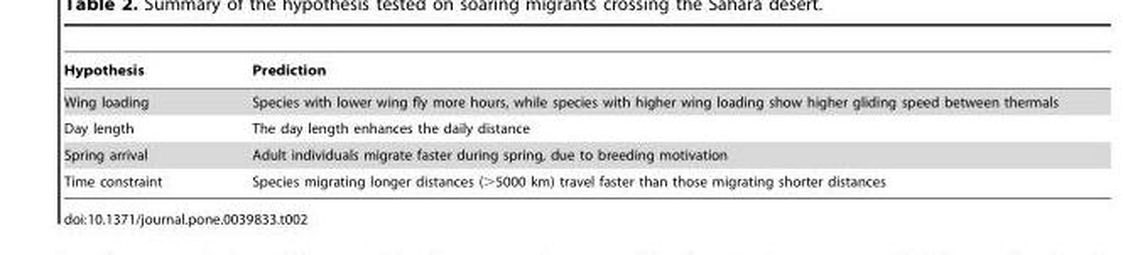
<table><thead><tr><td>Hypothesis</td><td>Prediction</td></tr></thead><tbody><tr><td>Wing loading</td><td>Species with lower wing fly more hours, while species with higher wing loading show higher gliding speed between thermals</td></tr><tr><td>Day length</td><td>The day length enhances the daily distance</td></tr><tr><td>Spring arrival</td><td>Adult individuals migrate faster during spring, due to breeding motivation</td></tr><tr><td>Time constraint</td><td>Species migrating longer distances (&gt;5000 km) travel faster than those migrating shorter distances</td></tr></tbody></table>